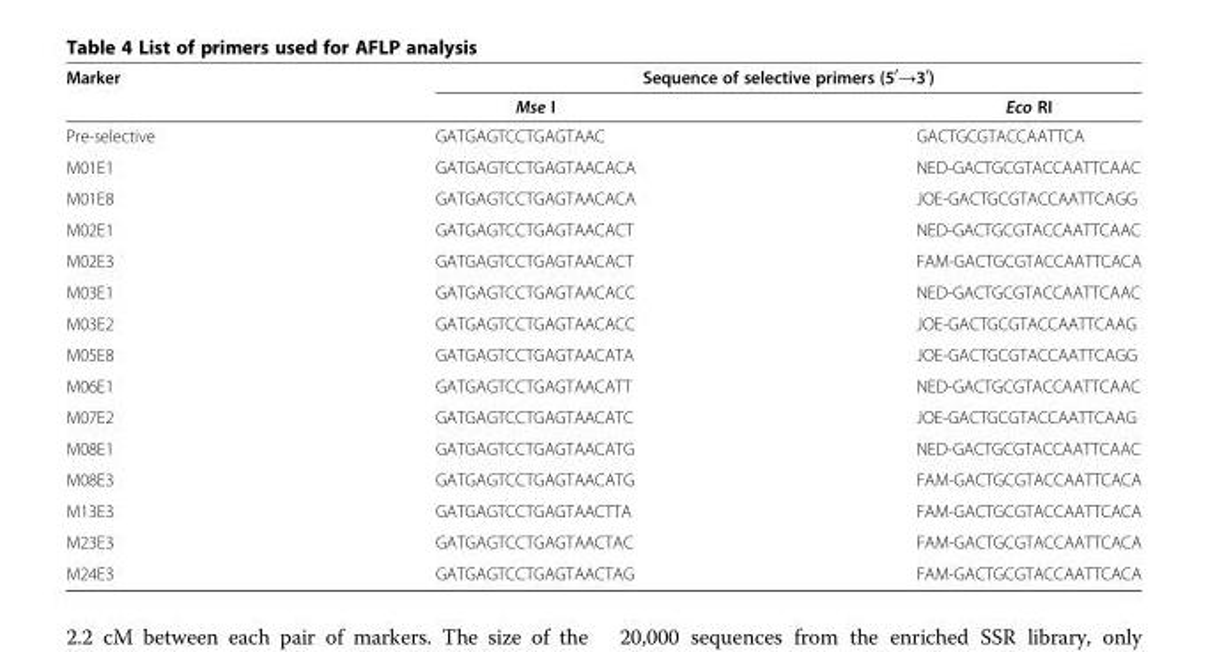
<table><thead><tr><td rowspan="2">Marker</td><td colspan="2">Sequence of selective primers (5<sup>′</sup>→3<sup>′</sup>)</td></tr><tr><td>Mse I</td><td>Eco RI</td></tr></thead><tbody><tr><td>Pre-selective</td><td>GATGAGTCCTGAGTAAC</td><td>GACTGCGTACCAATTCA</td></tr><tr><td>M01E1</td><td>GATGAGTCCTGAGTAACACA</td><td>NED-GACTGCGTACCAATTCAAC</td></tr><tr><td>M01E8</td><td>GATGAGTCCTGAGTAACACA</td><td>JOE-GACTGCGTACCAATTCAGG</td></tr><tr><td>M02E1</td><td>GATGAGTCCTGAGTAACACT</td><td>NED-GACTGCGTACCAATTCAAC</td></tr><tr><td>M02E3</td><td>GATGAGTCCTGAGTAACACT</td><td>FAM-GACTGCGTACCAATTCACA</td></tr><tr><td>M03E1</td><td>GATGAGTCCTGAGTAACACC</td><td>NED-GACTGCGTACCAATTCAAC</td></tr><tr><td>M03E2</td><td>GATGAGTCCTGAGTAACACC</td><td>JOE-GACTGCGTACCAATTCAAG</td></tr><tr><td>M05E8</td><td>GATGAGTCCTGAGTAACATA</td><td>JOE-GACTGCGTACCAATTCAGG</td></tr><tr><td>M06E1</td><td>GATGAGTCCTGAGTAACATT</td><td>NED-GACTGCGTACCAATTCAAC</td></tr><tr><td>M07E2</td><td>GATGAGTCCTGAGTAACATC</td><td>JOE-GACTGCGTACCAATTCAAG</td></tr><tr><td>M08E1</td><td>GATGAGTCCTGAGTAACATG</td><td>NED-GACTGCGTACCAATTCAAC</td></tr><tr><td>M08E3</td><td>GATGAGTCCTGAGTAACATG</td><td>FAM-GACTGCGTACCAATTCACA</td></tr><tr><td>M13E3</td><td>GATGAGTCCTGAGTAACTTA</td><td>FAM-GACTGCGTACCAATTCACA</td></tr><tr><td>M23E3</td><td>GATGAGTCCTGAGTAACTAC</td><td>FAM-GACTGCGTACCAATTCACA</td></tr><tr><td>M24E3</td><td>GATGAGTCCTGAGTAACTAG</td><td>FAM-GACTGCGTACCAATTCACA</td></tr></tbody></table>